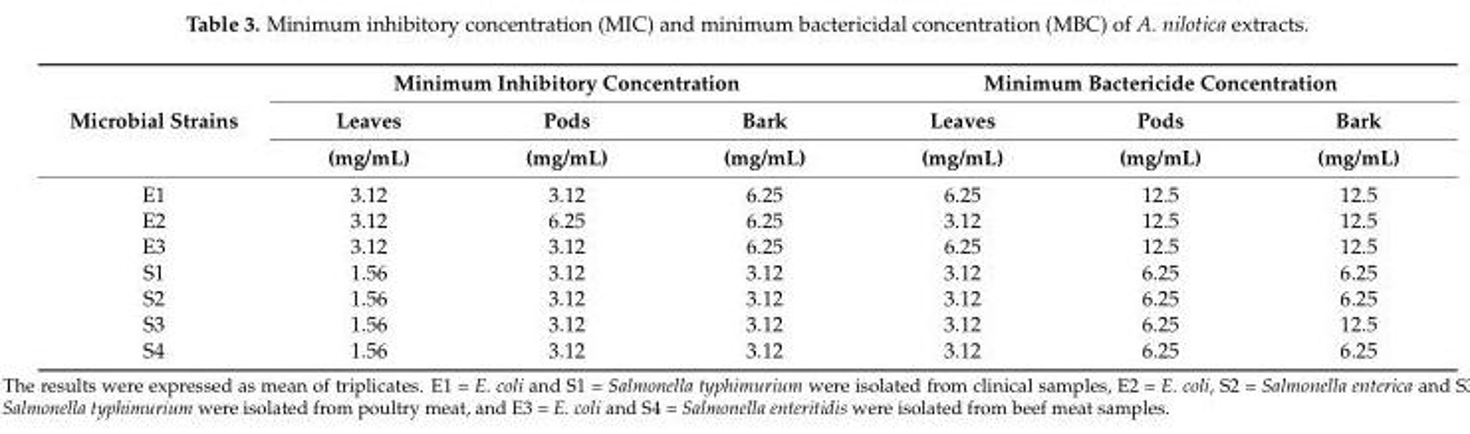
<table><thead><tr><td rowspan="3">Microbial Strains</td><td colspan="3">Minimum Inhibitory Concentration</td><td colspan="3">Minimum Bactericide Concentration</td></tr><tr><td rowspan="2">Leaves (mg/mL)</td><td rowspan="2">Pods (mg/mL)</td><td rowspan="2">Bark (mg/mL)</td><td rowspan="2">Leaves (mg/mL)</td><td rowspan="2">Pods (mg/mL)</td><td rowspan="2">Bark (mg/mL)</td></tr><tr></tr></thead><tbody><tr><td>E1</td><td>3.12</td><td>3.12</td><td>6.25</td><td>6.25</td><td>12.5</td><td>12.5</td></tr><tr><td>E2</td><td>3.12</td><td>6.25</td><td>6.25</td><td>3.12</td><td>12.5</td><td>12.5</td></tr><tr><td>E3</td><td>3.12</td><td>3.12</td><td>6.25</td><td>6.25</td><td>12.5</td><td>12.5</td></tr><tr><td>S1</td><td>1.56</td><td>3.12</td><td>3.12</td><td>3.12</td><td>6.25</td><td>6.25</td></tr><tr><td>S2</td><td>1.56</td><td>3.12</td><td>3.12</td><td>3.12</td><td>6.25</td><td>6.25</td></tr><tr><td>S3</td><td>1.56</td><td>3.12</td><td>3.12</td><td>3.12</td><td>6.25</td><td>12.5</td></tr><tr><td>S4</td><td>1.56</td><td>3.12</td><td>3.12</td><td>3.12</td><td>6.25</td><td>6.25</td></tr></tbody></table>